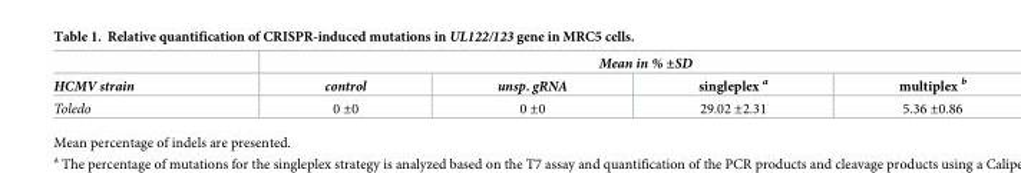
<table><thead><tr><td rowspan="2">HCMV strain</td><td colspan="4">Mean in % ±SD</td></tr><tr><td>control</td><td>unsp. gRNA</td><td>singleplex <sup>a</sup></td><td>multiplex <sup>b</sup></td></tr></thead><tbody><tr><td>Toledo</td><td>0 ±0</td><td>0 ±0</td><td>29.02 ±2.31</td><td>5.36 ±0.86</td></tr></tbody></table>